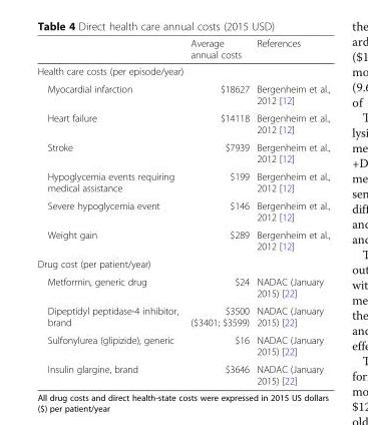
<table><thead><tr><td></td><td>Average annual costs</td><td>References</td></tr></thead><tbody><tr><td colspan="3">Health care costs (per episode/year)</td></tr><tr><td>Myocardial infarction</td><td>$18627</td><td>Bergenheim et al., 2012 [12]</td></tr><tr><td>Heart failure</td><td>$14118</td><td>Bergenheim et al., 2012 [12]</td></tr><tr><td>Stroke</td><td>$7939</td><td>Bergenheim et al., 2012 [12]</td></tr><tr><td>Hypoglycemia events requiring medical assistance</td><td>$199</td><td>Bergenheim et al., 2012 [12]</td></tr><tr><td>Severe hypoglycemia event</td><td>$146</td><td>Bergenheim et al., 2012 [12]</td></tr><tr><td>Weight gain</td><td>$289</td><td>Bergenheim et al., 2012 [12]</td></tr><tr><td colspan="3">Drug cost (per patient/year)</td></tr><tr><td>Metformin, generic drug</td><td>$24</td><td>NADAC (January 2015) [22]</td></tr><tr><td>Dipeptidyl peptidase-4 inhibitor, brand</td><td>$3500 ($3401; $3599)</td><td>NADAC (January 2015) [22]</td></tr><tr><td>Sulfonylurea (glipizide), generic</td><td>$16</td><td>NADAC (January 2015) [22]</td></tr><tr><td>Insulin glargine, brand</td><td>$3646</td><td>NADAC (January 2015) [22]</td></tr></tbody></table>